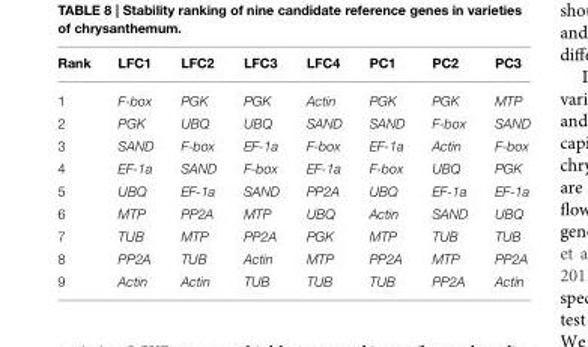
<table><thead><tr><td>Rank</td><td>LFC1</td><td>LFC2</td><td>LFC3</td><td>LFC4</td><td>PC1</td><td>PC2</td><td>PC3</td></tr></thead><tbody><tr><td>1</td><td>F-box</td><td>PGK</td><td>PGK</td><td>Actin</td><td>PGK</td><td>PGK</td><td>MTP</td></tr><tr><td>2</td><td>PGK</td><td>UBQ</td><td>UBQ</td><td>SAND</td><td>SAND</td><td>F-box</td><td>SAND</td></tr><tr><td>3</td><td>SAND</td><td>F-box</td><td>EF-1a</td><td>F-box</td><td>EF-1a</td><td>Actin</td><td>F-box</td></tr><tr><td>4</td><td>EF-1a</td><td>SAND</td><td>F-box</td><td>EF-1a</td><td>F-box</td><td>UBQ</td><td>PGK</td></tr><tr><td>5</td><td>UBQ</td><td>EF-1a</td><td>SAND</td><td>PP2A</td><td>UBQ</td><td>EF-1a</td><td>EF-1a</td></tr><tr><td>6</td><td>MTP</td><td>PP2A</td><td>MTP</td><td>UBQ</td><td>Actin</td><td>SAND</td><td>UBQ</td></tr><tr><td>7</td><td>TUB</td><td>MTP</td><td>PP2A</td><td>PGK</td><td>MTP</td><td>TUB</td><td>TUB</td></tr><tr><td>8</td><td>PP2A</td><td>TUB</td><td>Actin</td><td>MTP</td><td>PP2A</td><td>MTP</td><td>PP2A</td></tr><tr><td>9</td><td>Actin</td><td>Actin</td><td>TUB</td><td>TUB</td><td>TUB</td><td>PP2A</td><td>Actin</td></tr></tbody></table>